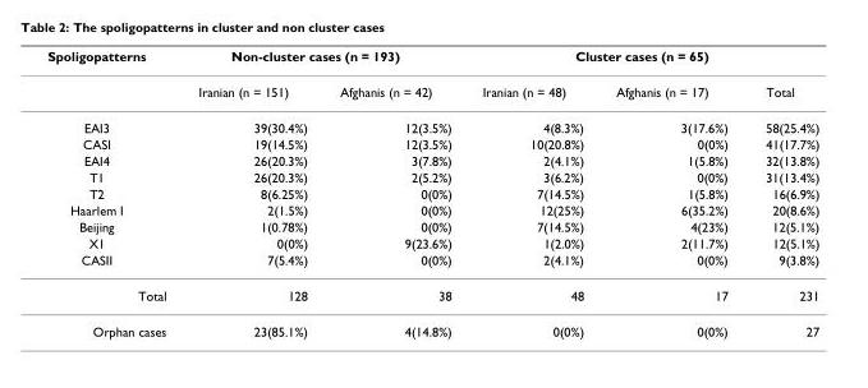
<table><thead><tr><td rowspan="2">Spoligopatterns</td><td colspan="2">Non-cluster cases (n = 193)</td><td colspan="3">Cluster cases (n = 65)</td></tr><tr><td>Iranian (n = 151)</td><td>Afghanis (n = 42)</td><td>Iranian (n = 48)</td><td>Afghanis (n = 17)</td><td>Total</td></tr></thead><tbody><tr><td>EAI3</td><td>39(30.4%)</td><td>12(3.5%)</td><td>4(8.3%)</td><td>3(17.6%)</td><td>58(25.4%)</td></tr><tr><td>CASI</td><td>19(14.5%)</td><td>12(3.5%)</td><td>10(20.8%)</td><td>0(0%)</td><td>41(17.7%)</td></tr><tr><td>EAI4</td><td>26(20.3%)</td><td>3(7.8%)</td><td>2(4.1%)</td><td>1(5.8%)</td><td>32(13.8%)</td></tr><tr><td>T1</td><td>26(20.3%)</td><td>2(5.2%)</td><td>3(6.2%)</td><td>0(0%)</td><td>31(13.4%)</td></tr><tr><td>T2</td><td>8(6.25%)</td><td>0(0%)</td><td>7(14.5%)</td><td>1(5.8%)</td><td>16(6.9%)</td></tr><tr><td>Haarlem I</td><td>2(1.5%)</td><td>0(0%)</td><td>12(25%)</td><td>6(35.2%)</td><td>20(8.6%)</td></tr><tr><td>Beijing</td><td>1(0.78%)</td><td>0(0%)</td><td>7(14.5%)</td><td>4(23%)</td><td>12(5.1%)</td></tr><tr><td>X1</td><td>0(0%)</td><td>9(23.6%)</td><td>1(2.0%)</td><td>2(11.7%)</td><td>12(5.1%)</td></tr><tr><td>CASII</td><td>7(5.4%)</td><td>0(0%)</td><td>2(4.1%)</td><td>0(0%)</td><td>9(3.8%)</td></tr><tr><td>Total</td><td>128</td><td>38</td><td>48</td><td>17</td><td>231</td></tr><tr><td>Orphan cases</td><td>23(85.1%)</td><td>4(14.8%)</td><td>0(0%)</td><td>0(0%)</td><td>27</td></tr></tbody></table>